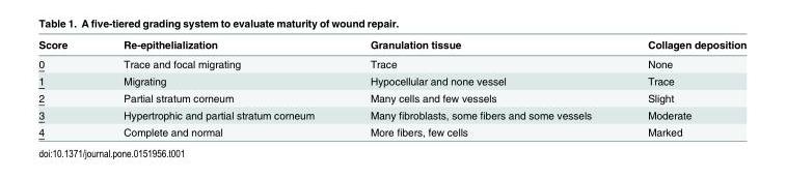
<table><thead><tr><td>Score</td><td>Re-epithelialization</td><td>Granulation tissue</td><td>Collagen deposition</td></tr></thead><tbody><tr><td>0</td><td>Trace and focal migrating</td><td>Trace</td><td>None</td></tr><tr><td>1</td><td>Migrating</td><td>Hypocellular and none vessel</td><td>Trace</td></tr><tr><td>2</td><td>Partial stratum corneum</td><td>Many cells and few vessels</td><td>Slight</td></tr><tr><td>3</td><td>Hypertrophic and partial stratum corneum</td><td>Many fibroblasts, some fibers and some vessels</td><td>Moderate</td></tr><tr><td>4</td><td>Complete and normal</td><td>More fibers, few cells</td><td>Marked</td></tr></tbody></table>